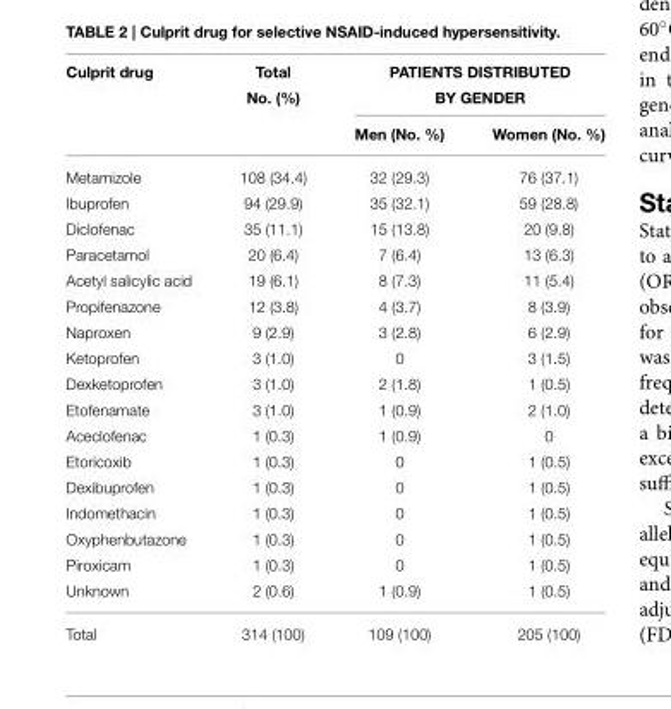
<table><thead><tr><td rowspan="2">Culprit drug</td><td rowspan="2">Total No. (%)</td><td colspan="2">PATIENTS DISTRIBUTED BY GENDER</td></tr><tr><td>Men (No. %)</td><td>Women (No. %)</td></tr></thead><tbody><tr><td>Metamizole</td><td>108 (34.4)</td><td>32 (29.3)</td><td>76 (37.1)</td></tr><tr><td>Ibuprofen</td><td>94 (29.9)</td><td>35 (32.1)</td><td>59 (28.8)</td></tr><tr><td>Diclofenac</td><td>35 (11.1)</td><td>15 (13.8)</td><td>20 (9.8)</td></tr><tr><td>Paracetamol</td><td>20 (6.4)</td><td>7 (6.4)</td><td>13 (6.3)</td></tr><tr><td>Acetyl salicylic acid</td><td>19 (6.1)</td><td>8 (7.3)</td><td>11 (5.4)</td></tr><tr><td>Propifenazone</td><td>12 (3.8)</td><td>4 (3.7)</td><td>8 (3.9)</td></tr><tr><td>Naproxen</td><td>9 (2.9)</td><td>3 (2.8)</td><td>6 (2.9)</td></tr><tr><td>Ketoprofen</td><td>3 (1.0)</td><td>0</td><td>3 (1.5)</td></tr><tr><td>Dexketoprofen</td><td>3 (1.0)</td><td>2 (1.8)</td><td>1 (0.5)</td></tr><tr><td>Etofenamate</td><td>3 (1.0)</td><td>1 (0.9)</td><td>2 (1.0)</td></tr><tr><td>Aceclofenac</td><td>1 (0.3)</td><td>1 (0.9)</td><td>0</td></tr><tr><td>Etoricoxib</td><td>1 (0.3)</td><td>0</td><td>1 (0.5)</td></tr><tr><td>Dexibuprofen</td><td>1 (0.3)</td><td>0</td><td>1 (0.5)</td></tr><tr><td>Indomethacin</td><td>1 (0.3)</td><td>0</td><td>1 (0.5)</td></tr><tr><td>Oxyphenbutazone</td><td>1 (0.3)</td><td>0</td><td>1 (0.5)</td></tr><tr><td>Piroxicam</td><td>1 (0.3)</td><td>0</td><td>1 (0.5)</td></tr><tr><td>Unknown</td><td>2 (0.6)</td><td>1 (0.9)</td><td>1 (0.5)</td></tr><tr><td>Total</td><td>314 (100)</td><td>109 (100)</td><td>205 (100)</td></tr></tbody></table>